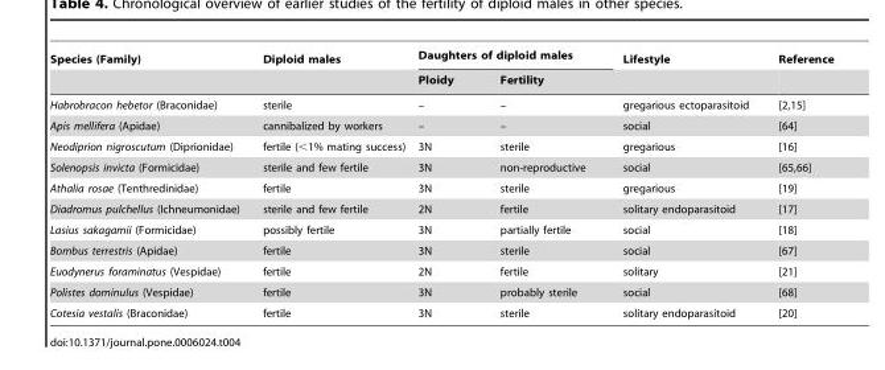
<table><thead><tr><td rowspan="2">Species (Family)</td><td rowspan="2">Diploid males</td><td colspan="2">Daughters of diploid males</td><td rowspan="2">Lifestyle</td><td rowspan="2">Reference</td></tr><tr><td>Ploidy</td><td>Fertility</td></tr></thead><tbody><tr><td>Habrobracon hebetor (Braconidae)</td><td>sterile</td><td>–</td><td>–</td><td>gregarious ectoparasitoid</td><td>[2,15]</td></tr><tr><td>Apis mellifera (Apidae)</td><td>cannibalized by workers</td><td>–</td><td>–</td><td>social</td><td>[64]</td></tr><tr><td>Neodiprion nigroscutum (Diprionidae)</td><td>fertile (&lt;1% mating success)</td><td>3N</td><td>sterile</td><td>gregarious</td><td>[16]</td></tr><tr><td>Solenopsis invicta (Formicidae)</td><td>sterile and few fertile</td><td>3N</td><td>non-reproductive</td><td>social</td><td>[65,66]</td></tr><tr><td>Athalia rosae (Tenthredinidae)</td><td>fertile</td><td>3N</td><td>sterile</td><td>gregarious</td><td>[19]</td></tr><tr><td>Diadromus pulchellus (Ichneumonidae)</td><td>sterile and few fertile</td><td>2N</td><td>fertile</td><td>solitary endoparasitoid</td><td>[17]</td></tr><tr><td>Lasius sakagamii (Formicidae)</td><td>possibly fertile</td><td>3N</td><td>partially fertile</td><td>social</td><td>[18]</td></tr><tr><td>Bombus terrestris (Apidae)</td><td>fertile</td><td>3N</td><td>sterile</td><td>social</td><td>[67]</td></tr><tr><td>Euodynerus foraminatus (Vespidae)</td><td>fertile</td><td>2N</td><td>fertile</td><td>solitary</td><td>[21]</td></tr><tr><td>Polistes dominulus (Vespidae)</td><td>fertile</td><td>3N</td><td>probably sterile</td><td>social</td><td>[68]</td></tr><tr><td>Cotesia vestalis (Braconidae)</td><td>fertile</td><td>3N</td><td>sterile</td><td>solitary endoparasitoid</td><td>[20]</td></tr></tbody></table>